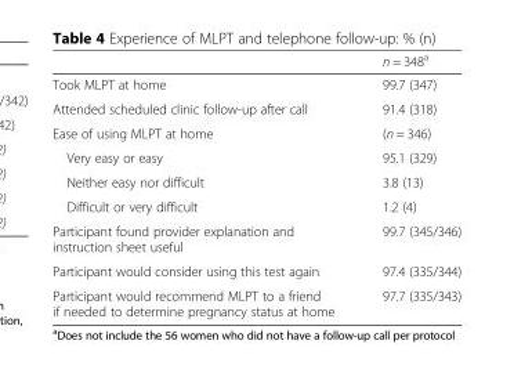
<table><thead><tr><td></td><td>n = 348<sup>a</sup></td></tr></thead><tbody><tr><td>Took MLPT at home</td><td>99.7 (347)</td></tr><tr><td>Attended scheduled clinic follow-up after call</td><td>91.4 (318)</td></tr><tr><td>Ease of using MLPT at home</td><td>(n = 346)</td></tr><tr><td>Very easy or easy</td><td>95.1 (329)</td></tr><tr><td>Neither easy nor difficult</td><td>3.8 (13)</td></tr><tr><td>Difficult or very difficult</td><td>1.2 (4)</td></tr><tr><td>Participant found provider explanation and instruction sheet useful</td><td>99.7 (345/346)</td></tr><tr><td>Participant would consider using this test again</td><td>97.4 (335/344)</td></tr><tr><td>Participant would recommend MLPT to a friend if needed to determine pregnancy status at home</td><td>97.7 (335/343)</td></tr></tbody></table>